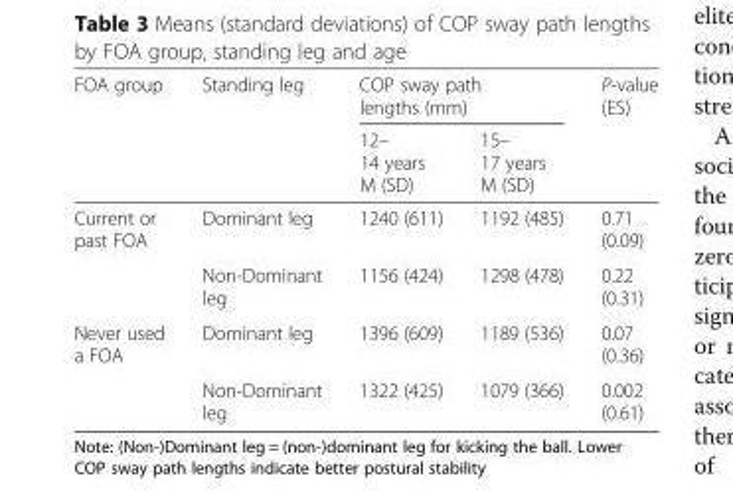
<table><thead><tr><td rowspan="2">FOA group</td><td rowspan="2">Standing leg</td><td colspan="2">COP sway path lengths (mm)</td><td rowspan="2">P-value (ES)</td></tr><tr><td>12– 14 years M (SD)</td><td>15– 17 years M (SD)</td></tr></thead><tbody><tr><td rowspan="2">Current or past FOA</td><td>Dominant leg</td><td>1240 (611)</td><td>1192 (485)</td><td>0.71 (0.09)</td></tr><tr><td>Non-Dominant leg</td><td>1156 (424)</td><td>1298 (478)</td><td>0.22 (0.31)</td></tr><tr><td rowspan="2">Never used a FOA</td><td>Dominant leg</td><td>1396 (609)</td><td>1189 (536)</td><td>0.07 (0.36)</td></tr><tr><td>Non-Dominant leg</td><td>1322 (425)</td><td>1079 (366)</td><td>0.002 (0.61)</td></tr></tbody></table>